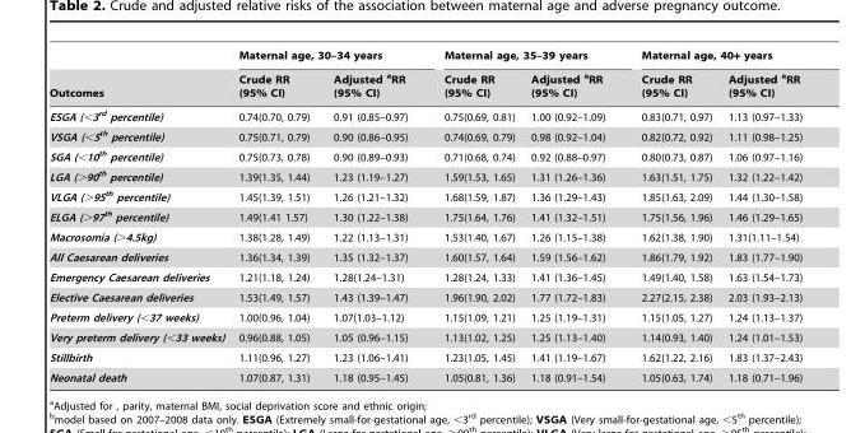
<table><thead><tr><td rowspan="2">Outcomes</td><td colspan="2">Maternal age, 30–34 years</td><td colspan="2">Maternal age, 35–39 years</td><td colspan="2">Maternal age, 40+ years</td></tr><tr><td>Crude RR (95% CI)</td><td>Adjusted <sup>a</sup>RR (95% CI)</td><td>Crude RR (95% CI)</td><td>Adjusted <sup>a</sup>RR (95% CI)</td><td>Crude RR (95% CI)</td><td>Adjusted <sup>a</sup>RR (95% CI)</td></tr></thead><tbody><tr><td>ESGA (&lt;3<sup>rd</sup> percentile)</td><td>0.74(0.70, 0.79)</td><td>0.91 (0.85–0.97)</td><td>0.75(0.69, 0.81)</td><td>1.00 (0.92–1.09)</td><td>0.83(0.71, 0.97)</td><td>1.13 (0.97–1.33)</td></tr><tr><td>VSGA (&lt;5<sup>th</sup> percentile)</td><td>0.75(0.71, 0.79)</td><td>0.90 (0.86–0.95)</td><td>0.74(0.69, 0.79)</td><td>0.98 (0.92–1.04)</td><td>0.82(0.72, 0.92)</td><td>1.11 (0.98–1.25)</td></tr><tr><td>SGA (&lt;10<sup>th</sup> percentile)</td><td>0.75(0.73, 0.78)</td><td>0.90 (0.89–0.93)</td><td>0.71(0.68, 0.74)</td><td>0.92 (0.88–0.97)</td><td>0.80(0.73, 0.87)</td><td>1.06 (0.97–1.16)</td></tr><tr><td>LGA (&gt;90<sup>th</sup> percentile)</td><td>1.39(1.35, 1.44)</td><td>1.23 (1.19–1.27)</td><td>1.59(1.53, 1.65)</td><td>1.31 (1.26–1.36)</td><td>1.63(1.51, 1.75)</td><td>1.32 (1.22–1.42)</td></tr><tr><td>VLGA (&gt;95<sup>th</sup> percentile)</td><td>1.45(1.39, 1.51)</td><td>1.26 (1.21–1.32)</td><td>1.68(1.59, 1.87)</td><td>1.36 (1.29–1.43)</td><td>1.85(1.63, 2.09)</td><td>1.44 (1.30–1.58)</td></tr><tr><td>ELGA (&gt;97<sup>th</sup> percentile)</td><td>1.49(1.41 1.57)</td><td>1.30 (1.22–1.38)</td><td>1.75(1.64, 1.76)</td><td>1.41 (1.32–1.51)</td><td>1.75(1.56, 1.96)</td><td>1.46 (1.29–1.65)</td></tr><tr><td>Macrosomia (&gt;4.5kg)</td><td>1.38(1.28, 1.49)</td><td>1.22 (1.13–1.31)</td><td>1.53(1.40, 1.67)</td><td>1.26 (1.15–1.38)</td><td>1.62(1.38, 1.90)</td><td>1.31(1.11–1.54)</td></tr><tr><td>All Caesarean deliveries</td><td>1.36(1.34, 1.39)</td><td>1.35 (1.32–1.37)</td><td>1.60(1.57, 1.64)</td><td>1.59 (1.56–1.62)</td><td>1.86(1.79, 1.92)</td><td>1.83 (1.77–1.90)</td></tr><tr><td>Emergency Caesarean deliveries</td><td>1.21(1.18, 1.24)</td><td>1.28(1.24–1.31)</td><td>1.28(1.24, 1.33)</td><td>1.41 (1.36–1.45)</td><td>1.49(1.40, 1.58)</td><td>1.63 (1.54–1.73)</td></tr><tr><td>Elective Caesarean deliveries</td><td>1.53(1.49, 1.57)</td><td>1.43 (1.39–1.47)</td><td>1.96(1.90, 2.02)</td><td>1.77 (1.72–1.83)</td><td>2.27(2.15, 2.38)</td><td>2.03 (1.93–2.13)</td></tr><tr><td>Preterm delivery (&lt;37 weeks)</td><td>1.00(0.96, 1.04)</td><td>1.07(1.03–1.12)</td><td>1.15(1.09, 1.21)</td><td>1.25 (1.19–1.31)</td><td>1.15(1.05, 1.27)</td><td>1.24 (1.13–1.37)</td></tr><tr><td>Very preterm delivery (&lt;33 weeks)</td><td>0.96(0.88, 1.05)</td><td>1.05 (0.96–1.15)</td><td>1.13(1.02, 1.25)</td><td>1.25 (1.13–1.40)</td><td>1.14(0.93, 1.40)</td><td>1.24 (1.01–1.53)</td></tr><tr><td>Stillbirth</td><td>1.11(0.96, 1.27)</td><td>1.23 (1.06–1.41)</td><td>1.23(1.05, 1.45)</td><td>1.41 (1.19–1.67)</td><td>1.62(1.22, 2.16)</td><td>1.83 (1.37–2.43)</td></tr><tr><td>Neonatal death</td><td>1.07(0.87, 1.31)</td><td>1.18 (0.95–1.45)</td><td>1.05(0.81, 1.36)</td><td>1.18 (0.91–1.54)</td><td>1.05(0.63, 1.74)</td><td>1.18 (0.71–1.96)</td></tr></tbody></table>